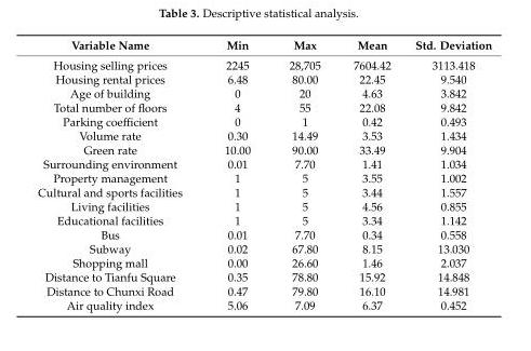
<table><thead><tr><td>Variable Name</td><td>Min</td><td>Max</td><td>Mean</td><td>Std. Deviation</td></tr></thead><tbody><tr><td>Housing selling prices</td><td>2245</td><td>28,705</td><td>7604.42</td><td>3113.418</td></tr><tr><td>Housing rental prices</td><td>6.48</td><td>80.00</td><td>22.45</td><td>9.540</td></tr><tr><td>Age of building</td><td>0</td><td>20</td><td>4.63</td><td>3.842</td></tr><tr><td>Total number of floors</td><td>4</td><td>55</td><td>22.08</td><td>9.842</td></tr><tr><td>Parking coefficient</td><td>0</td><td>1</td><td>0.42</td><td>0.493</td></tr><tr><td>Volume rate</td><td>0.30</td><td>14.49</td><td>3.53</td><td>1.434</td></tr><tr><td>Green rate</td><td>10.00</td><td>90.00</td><td>33.49</td><td>9.904</td></tr><tr><td>Surrounding environment</td><td>0.01</td><td>7.70</td><td>1.41</td><td>1.034</td></tr><tr><td>Property management</td><td>1</td><td>5</td><td>3.55</td><td>1.002</td></tr><tr><td>Cultural and sports facilities</td><td>1</td><td>5</td><td>3.44</td><td>1.557</td></tr><tr><td>Living facilities</td><td>1</td><td>5</td><td>4.56</td><td>0.855</td></tr><tr><td>Educational facilities</td><td>1</td><td>5</td><td>3.34</td><td>1.142</td></tr><tr><td>Bus</td><td>0.01</td><td>7.70</td><td>0.34</td><td>0.558</td></tr><tr><td>Subway</td><td>0.02</td><td>67.80</td><td>8.15</td><td>13.030</td></tr><tr><td>Shopping mall</td><td>0.00</td><td>26.60</td><td>1.46</td><td>2.037</td></tr><tr><td>Distance to Tianfu Square</td><td>0.35</td><td>78.80</td><td>15.92</td><td>14.848</td></tr><tr><td>Distance to Chunxi Road</td><td>0.47</td><td>79.80</td><td>16.10</td><td>14.981</td></tr><tr><td>Air quality index</td><td>5.06</td><td>7.09</td><td>6.37</td><td>0.452</td></tr></tbody></table>